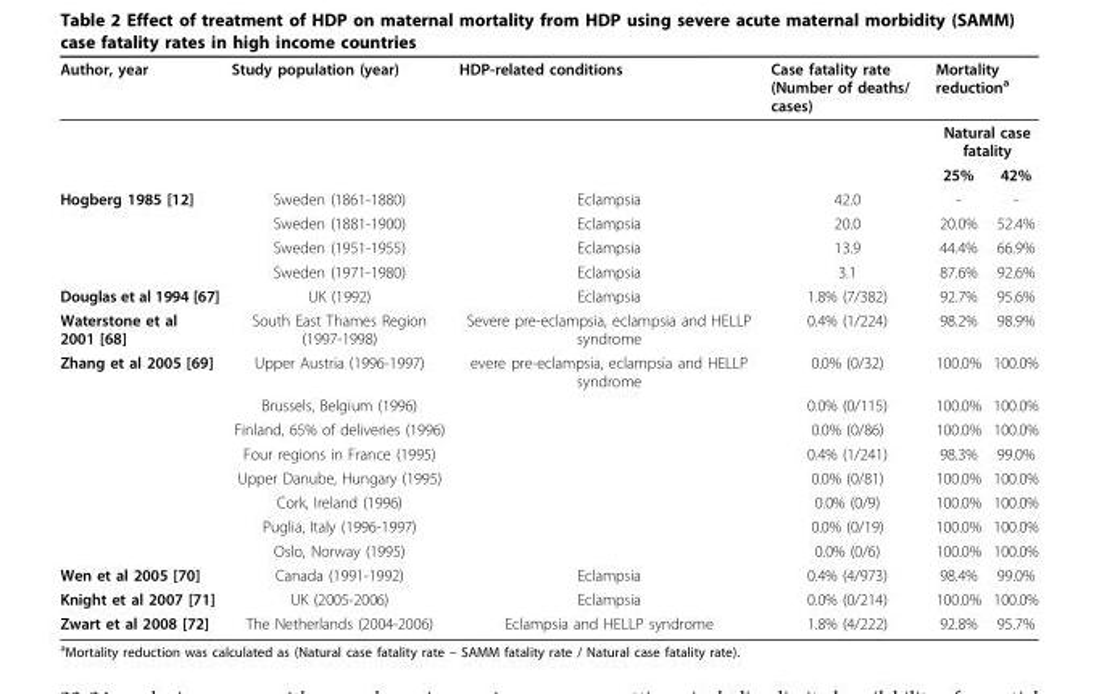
<table><thead><tr><td rowspan="3">Author, year</td><td rowspan="3">Study population (year)</td><td rowspan="3">HDP-related conditions</td><td rowspan="3">Case fatality rate (Number of deaths/ cases)</td><td rowspan="2" colspan="2">Mortality reduction<sup>a</sup> Natural case fatality</td></tr><tr></tr><tr><td>25%</td><td>42%</td></tr></thead><tbody><tr><td rowspan="4">Hogberg 1985 [12]</td><td>Sweden (1861-1880)</td><td>Eclampsia</td><td>42.0</td><td>-</td><td>-</td></tr><tr><td>Sweden (1881-1900)</td><td>Eclampsia</td><td>20.0</td><td>20.0%</td><td>52.4%</td></tr><tr><td>Sweden (1951-1955)</td><td>Eclampsia</td><td>13.9</td><td>44.4%</td><td>66.9%</td></tr><tr><td>Sweden (1971-1980)</td><td>Eclampsia</td><td>3.1</td><td>87.6%</td><td>92.6%</td></tr><tr><td>Douglas et al 1994 [67]</td><td>UK (1992)</td><td>Eclampsia</td><td>1.8% (7/382)</td><td>92.7%</td><td>95.6%</td></tr><tr><td>Waterstone et al 2001 [68]</td><td>South East Thames Region (1997-1998)</td><td>Severe pre-eclampsia, eclampsia and HELLP syndrome</td><td>0.4% (1/224)</td><td>98.2%</td><td>98.9%</td></tr><tr><td rowspan="8">Zhang et al 2005 [69]</td><td>Upper Austria (1996-1997)</td><td>evere pre-eclampsia, eclampsia and HELLP syndrome</td><td>0.0% (0/32)</td><td>100.0%</td><td>100.0%</td></tr><tr><td>Brussels, Belgium (1996)</td><td></td><td>0.0% (0/115)</td><td>100.0%</td><td>100.0%</td></tr><tr><td>Finland, 65% of deliveries (1996)</td><td></td><td>0.0% (0/86)</td><td>100.0%</td><td>100.0%</td></tr><tr><td>Four regions in France (1995)</td><td></td><td>0.4% (1/241)</td><td>98.3%</td><td>99.0%</td></tr><tr><td>Upper Danube, Hungary (1995)</td><td></td><td>0.0% (0/81)</td><td>100.0%</td><td>100.0%</td></tr><tr><td>Cork, Ireland (1996)</td><td></td><td>0.0% (0/9)</td><td>100.0%</td><td>100.0%</td></tr><tr><td>Puglia, Italy (1996-1997)</td><td></td><td>0.0% (0/19)</td><td>100.0%</td><td>100.0%</td></tr><tr><td>Oslo, Norway (1995)</td><td></td><td>0.0% (0/6)</td><td>100.0%</td><td>100.0%</td></tr><tr><td>Wen et al 2005 [70]</td><td>Canada (1991-1992)</td><td>Eclampsia</td><td>0.4% (4/973)</td><td>98.4%</td><td>99.0%</td></tr><tr><td>Knight et al 2007 [71]</td><td>UK (2005-2006)</td><td>Eclampsia</td><td>0.0% (0/214)</td><td>100.0%</td><td>100.0%</td></tr><tr><td>Zwart et al 2008 [72]</td><td>The Netherlands (2004-2006)</td><td>Eclampsia and HELLP syndrome</td><td>1.8% (4/222)</td><td>92.8%</td><td>95.7%</td></tr></tbody></table>